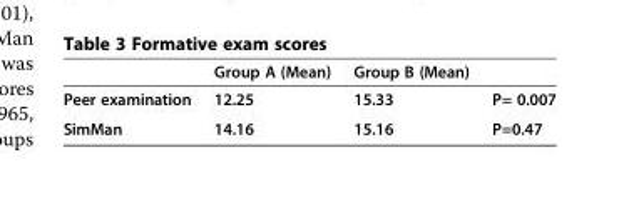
<table><thead><tr><td></td><td>Group A (Mean)</td><td>Group B (Mean)</td><td></td></tr></thead><tbody><tr><td>Peer examination</td><td>12.25</td><td>15.33</td><td>P= 0.007</td></tr><tr><td>SimMan</td><td>14.16</td><td>15.16</td><td>P=0.47</td></tr></tbody></table>